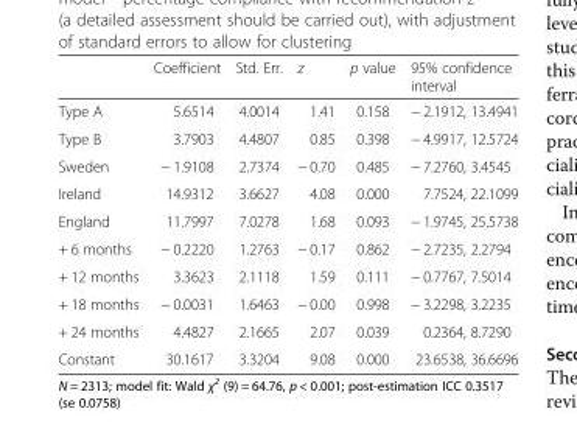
<table><thead><tr><td></td><td>Coefficient</td><td>Std. Err.</td><td>z</td><td>p value</td><td>95% confidence interval</td></tr></thead><tbody><tr><td>Type A</td><td>5.6514</td><td>4.0014</td><td>1.41</td><td>0.158</td><td>− 2.1912, 13.4941</td></tr><tr><td>Type B</td><td>3.7903</td><td>4.4807</td><td>0.85</td><td>0.398</td><td>− 4.9917, 12.5724</td></tr><tr><td>Sweden</td><td>− 1.9108</td><td>2.7374</td><td>− 0.70</td><td>0.485</td><td>− 7.2760, 3.4545</td></tr><tr><td>Ireland</td><td>14.9312</td><td>3.6627</td><td>4.08</td><td>0.000</td><td>7.7524, 22.1099</td></tr><tr><td>England</td><td>11.7997</td><td>7.0278</td><td>1.68</td><td>0.093</td><td>− 1.9745, 25.5738</td></tr><tr><td>+ 6 months</td><td>− 0.2220</td><td>1.2763</td><td>− 0.17</td><td>0.862</td><td>− 2.7235, 2.2794</td></tr><tr><td>+ 12 months</td><td>3.3623</td><td>2.1118</td><td>1.59</td><td>0.111</td><td>− 0.7767, 7.5014</td></tr><tr><td>+ 18 months</td><td>− 0.0031</td><td>1.6463</td><td>− 0.00</td><td>0.998</td><td>− 3.2298, 3.2235</td></tr><tr><td>+ 24 months</td><td>4.4827</td><td>2.1665</td><td>2.07</td><td>0.039</td><td>0.2364, 8.7290</td></tr><tr><td>Constant</td><td>30.1617</td><td>3.3204</td><td>9.08</td><td>0.000</td><td>23.6538, 36.6696</td></tr></tbody></table>